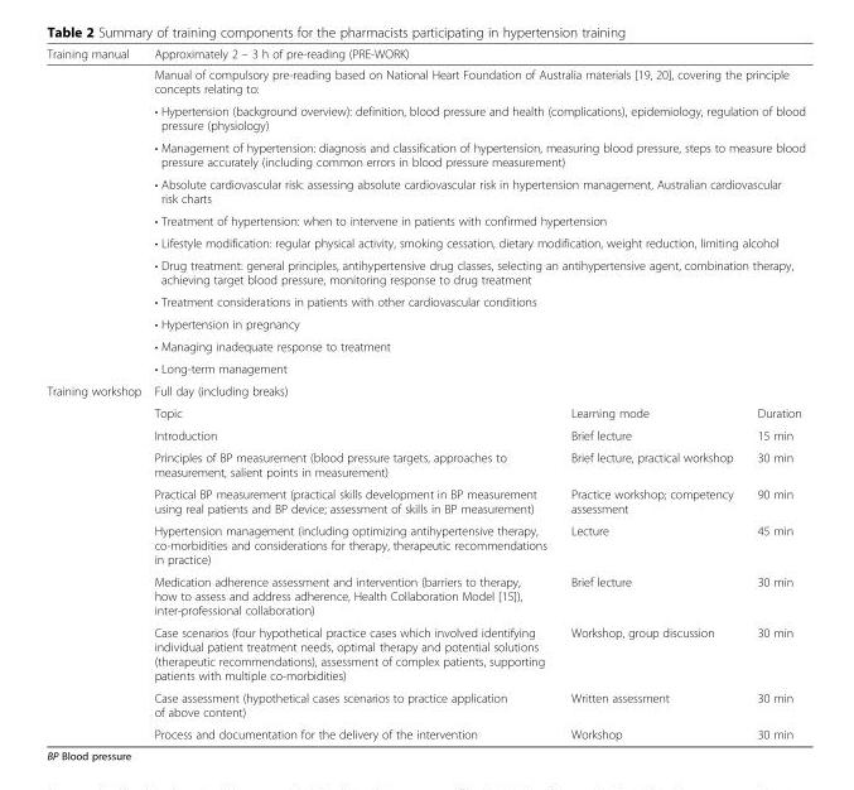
<table><thead><tr><td>Training manual</td><td colspan="3">Approximately 2 – 3 h of pre-reading (PRE-WORK)</td></tr></thead><tbody><tr><td rowspan="11"></td><td colspan="3">Manual of compulsory pre-reading based on National Heart Foundation of Australia materials [19, 20], covering the principle concepts relating to:</td></tr><tr><td colspan="3">• Hypertension (background overview): definition, blood pressure and health (complications), epidemiology, regulation of blood pressure (physiology)</td></tr><tr><td colspan="3">• Management of hypertension: diagnosis and classification of hypertension, measuring blood pressure, steps to measure blood pressure accurately (including common errors in blood pressure measurement)</td></tr><tr><td colspan="3">• Absolute cardiovascular risk: assessing absolute cardiovascular risk in hypertension management, Australian cardiovascular risk charts</td></tr><tr><td colspan="3">• Treatment of hypertension: when to intervene in patients with confirmed hypertension</td></tr><tr><td colspan="3">• Lifestyle modification: regular physical activity, smoking cessation, dietary modification, weight reduction, limiting alcohol</td></tr><tr><td colspan="3">• Drug treatment: general principles, antihypertensive drug classes, selecting an antihypertensive agent, combination therapy, achieving target blood pressure, monitoring response to drug treatment</td></tr><tr><td colspan="3">• Treatment considerations in patients with other cardiovascular conditions</td></tr><tr><td colspan="3">• Hypertension in pregnancy</td></tr><tr><td colspan="3">• Managing inadequate response to treatment</td></tr><tr><td colspan="3">• Long-term management</td></tr><tr><td rowspan="10">Training workshop</td><td colspan="3">Full day (including breaks)</td></tr><tr><td>Topic</td><td>Learning mode</td><td>Duration</td></tr><tr><td>Introduction</td><td>Brief lecture</td><td>15 min</td></tr><tr><td>Principles of BP measurement (blood pressure targets, approaches to measurement, salient points in measurement)</td><td>Brief lecture, practical workshop</td><td>30 min</td></tr><tr><td>Practical BP measurement (practical skills development in BP measurement using real patients and BP device; assessment of skills in BP measurement)</td><td>Practice workshop; competency assessment</td><td>90 min</td></tr><tr><td>Hypertension management (including optimizing antihypertensive therapy, co-morbidities and considerations for therapy, therapeutic recommendations in practice)</td><td>Lecture</td><td>45 min</td></tr><tr><td>Medication adherence assessment and intervention (barriers to therapy, how to assess and address adherence, Health Collaboration Model [15]), inter-professional collaboration)</td><td>Brief lecture</td><td>30 min</td></tr><tr><td>Case scenarios (four hypothetical practice cases which involved identifying individual patient treatment needs, optimal therapy and potential solutions (therapeutic recommendations), assessment of complex patients, supporting patients with multiple co-morbidities)</td><td>Workshop, group discussion</td><td>30 min</td></tr><tr><td>Case assessment (hypothetical cases scenarios to practice application of above content)</td><td>Written assessment</td><td>30 min</td></tr><tr><td>Process and documentation for the delivery of the intervention</td><td>Workshop</td><td>30 min</td></tr></tbody></table>